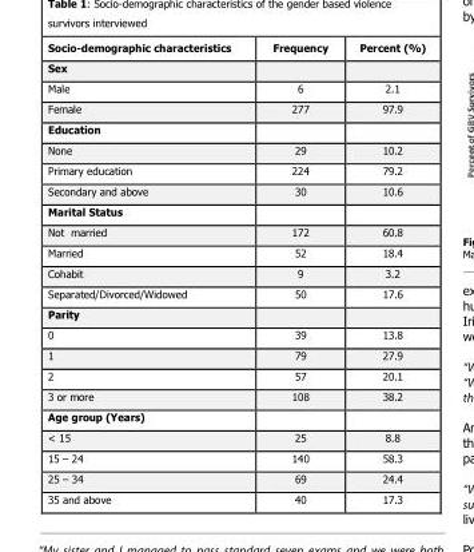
<table><thead><tr><td>Socio-demographic characteristics</td><td>Frequency</td><td>Percent (%)</td></tr></thead><tbody><tr><td colspan="3">Sex</td></tr><tr><td>Male</td><td>6</td><td>2.1</td></tr><tr><td>Female</td><td>277</td><td>97.9</td></tr><tr><td colspan="3">Education</td></tr><tr><td>None</td><td>29</td><td>10.2</td></tr><tr><td>Primary education</td><td>224</td><td>79.2</td></tr><tr><td>Secondary and above</td><td>30</td><td>10.6</td></tr><tr><td colspan="3">Marital Status</td></tr><tr><td>Not married</td><td>172</td><td>60.8</td></tr><tr><td>Married</td><td>52</td><td>18.4</td></tr><tr><td>Cohabit</td><td>9</td><td>3.2</td></tr><tr><td>Separated/Divorced/Widowed</td><td>50</td><td>17.6</td></tr><tr><td colspan="3">Parity</td></tr><tr><td>0</td><td>39</td><td>13.8</td></tr><tr><td>1</td><td>79</td><td>27.9</td></tr><tr><td>2</td><td>57</td><td>20.1</td></tr><tr><td>3 or more</td><td>108</td><td>38.2</td></tr><tr><td colspan="3">Age group (Years)</td></tr><tr><td>&lt; 15</td><td>25</td><td>8.8</td></tr><tr><td>15 – 24</td><td>140</td><td>58.3</td></tr><tr><td>25 – 34</td><td>69</td><td>24.4</td></tr><tr><td>35 and above</td><td>40</td><td>17.3</td></tr></tbody></table>